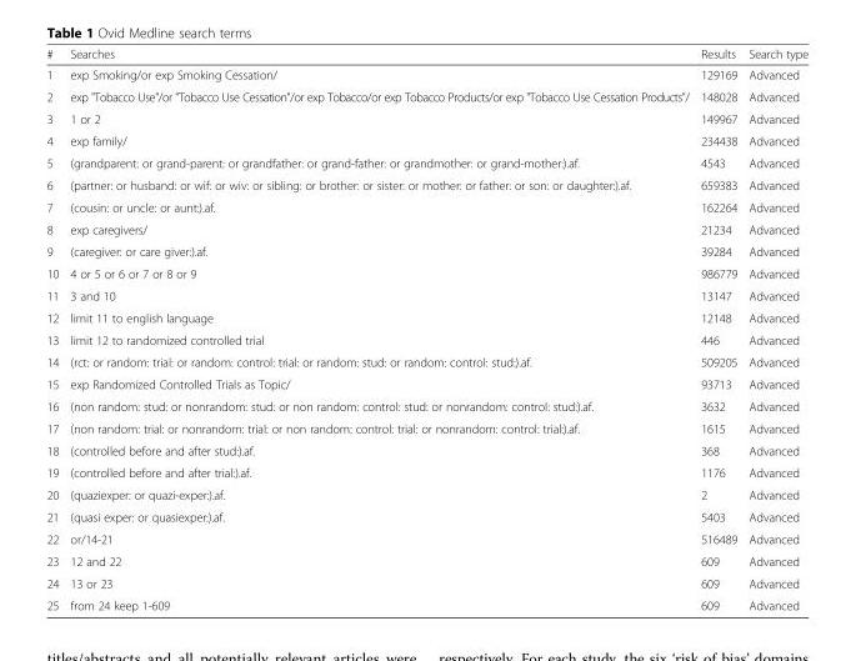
<table><thead><tr><td>#</td><td>Searches</td><td>Results</td><td>Search type</td></tr></thead><tbody><tr><td>1</td><td>exp Smoking/or exp Smoking Cessation/</td><td>129169</td><td>Advanced</td></tr><tr><td>2</td><td>exp &quot;Tobacco Use&quot;/or &quot;Tobacco Use Cessation&quot;/or exp Tobacco/or exp Tobacco Products/or exp &quot;Tobacco Use Cessation Products&quot;/</td><td>148028</td><td>Advanced</td></tr><tr><td>3</td><td>1 or 2</td><td>149967</td><td>Advanced</td></tr><tr><td>4</td><td>exp family/</td><td>234438</td><td>Advanced</td></tr><tr><td>5</td><td>(grandparent: or grand-parent: or grandfather: or grand-father: or grandmother: or grand-mother:).af.</td><td>4543</td><td>Advanced</td></tr><tr><td>6</td><td>(partner: or husband: or wif: or wiv: or sibling: or brother: or sister: or mother: or father: or son: or daughter:).af.</td><td>659383</td><td>Advanced</td></tr><tr><td>7</td><td>(cousin: or uncle: or aunt:).af.</td><td>162264</td><td>Advanced</td></tr><tr><td>8</td><td>exp caregivers/</td><td>21234</td><td>Advanced</td></tr><tr><td>9</td><td>(caregiver: or care giver:).af.</td><td>39284</td><td>Advanced</td></tr><tr><td>10</td><td>4 or 5 or 6 or 7 or 8 or 9</td><td>986779</td><td>Advanced</td></tr><tr><td>11</td><td>3 and 10</td><td>13147</td><td>Advanced</td></tr><tr><td>12</td><td>limit 11 to english language</td><td>12148</td><td>Advanced</td></tr><tr><td>13</td><td>limit 12 to randomized controlled trial</td><td>446</td><td>Advanced</td></tr><tr><td>14</td><td>(rct: or random: trial: or random: control: trial: or random: stud: or random: control: stud:).af.</td><td>509205</td><td>Advanced</td></tr><tr><td>15</td><td>exp Randomized Controlled Trials as Topic/</td><td>93713</td><td>Advanced</td></tr><tr><td>16</td><td>(non random: stud: or nonrandom: stud: or non random: control: stud: or nonrandom: control: stud:).af.</td><td>3632</td><td>Advanced</td></tr><tr><td>17</td><td>(non random: trial: or nonrandom: trial: or non random: control: trial: or nonrandom: control: trial:).af.</td><td>1615</td><td>Advanced</td></tr><tr><td>18</td><td>(controlled before and after stud:).af.</td><td>368</td><td>Advanced</td></tr><tr><td>19</td><td>(controlled before and after trial:).af.</td><td>1176</td><td>Advanced</td></tr><tr><td>20</td><td>(quaziexper: or quazi-exper:).af.</td><td>2</td><td>Advanced</td></tr><tr><td>21</td><td>(quasi exper: or quasiexper:).af.</td><td>5403</td><td>Advanced</td></tr><tr><td>22</td><td>or/14-21</td><td>516489</td><td>Advanced</td></tr><tr><td>23</td><td>12 and 22</td><td>609</td><td>Advanced</td></tr><tr><td>24</td><td>13 or 23</td><td>609</td><td>Advanced</td></tr><tr><td>25</td><td>from 24 keep 1-609</td><td>609</td><td>Advanced</td></tr></tbody></table>